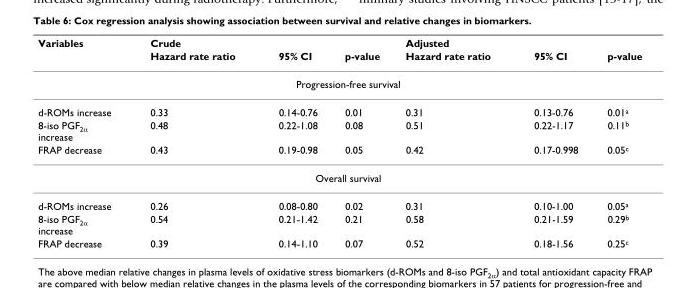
<table><thead><tr><td rowspan="2">Variables</td><td colspan="3">Crude</td><td colspan="3">Adjusted</td></tr><tr><td>Hazard rate ratio</td><td>95% CI</td><td>p-value</td><td>Hazard rate ratio</td><td>95% CI</td><td>p-value</td></tr></thead><tbody><tr><td colspan="7">Progression-free survival</td></tr><tr><td>d-ROMs increase</td><td>0.33</td><td>0.14-0.76</td><td>0.01</td><td>0.31</td><td>0.13-0.76</td><td>0.01<sup>a</sup></td></tr><tr><td>8-iso PGF<sub>2α</sub> increase</td><td>0.48</td><td>0.22-1.08</td><td>0.08</td><td>0.51</td><td>0.22-1.17</td><td>0.11<sup>b</sup></td></tr><tr><td>FRAP decrease</td><td>0.43</td><td>0.19-0.98</td><td>0.05</td><td>0.42</td><td>0.17-0.998</td><td>0.05<sup>c</sup></td></tr><tr><td colspan="7">Overall survival</td></tr><tr><td>d-ROMs increase</td><td>0.26</td><td>0.08-0.80</td><td>0.02</td><td>0.31</td><td>0.10-1.00</td><td>0.05<sup>a</sup></td></tr><tr><td>8-iso PGF<sub>2α</sub> increase</td><td>0.54</td><td>0.21-1.42</td><td>0.21</td><td>0.58</td><td>0.21-1.59</td><td>0.29<sup>b</sup></td></tr><tr><td>FRAP decrease</td><td>0.39</td><td>0.14-1.10</td><td>0.07</td><td>0.52</td><td>0.18-1.56</td><td>0.25<sup>c</sup></td></tr></tbody></table>